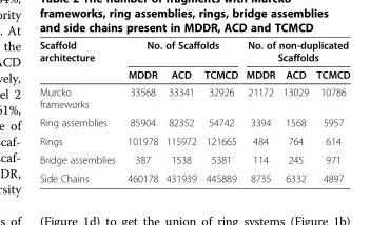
<table><thead><tr><td rowspan="2">Scaffold architecture</td><td colspan="3">No. of Scaffolds</td><td colspan="3">No. of non-duplicated Scaffolds</td></tr><tr><td>MDDR</td><td>ACD</td><td>TCMCD</td><td>MDDR</td><td>ACD</td><td>TCMCD</td></tr></thead><tbody><tr><td>Murcko frameworks</td><td>33568</td><td>33341</td><td>32926</td><td>21172</td><td>13029</td><td>10786</td></tr><tr><td>Ring assemblies</td><td>85904</td><td>82352</td><td>54742</td><td>3394</td><td>1568</td><td>5957</td></tr><tr><td>Rings</td><td>101978</td><td>115972</td><td>121665</td><td>484</td><td>764</td><td>614</td></tr><tr><td>Bridge assemblies</td><td>387</td><td>1538</td><td>5381</td><td>114</td><td>245</td><td>971</td></tr><tr><td>Side Chains</td><td>460178</td><td>431939</td><td>445889</td><td>8735</td><td>6332</td><td>4897</td></tr></tbody></table>